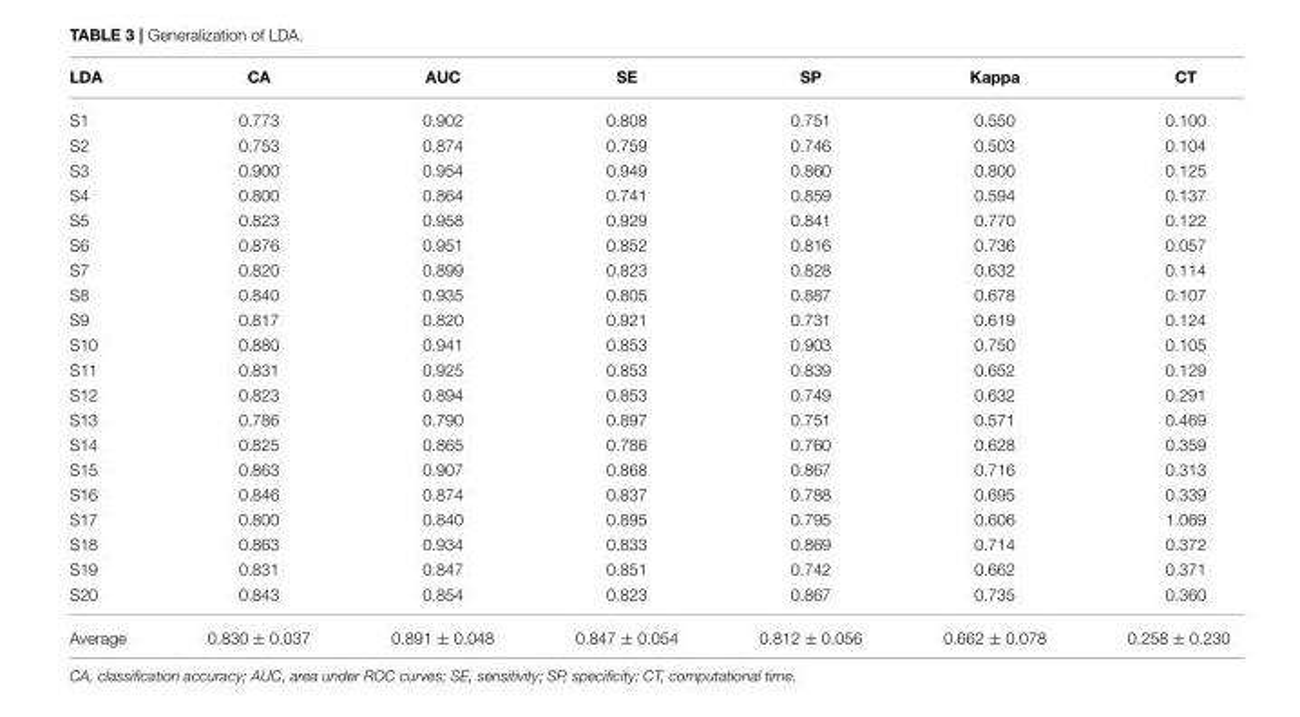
<table><thead><tr><td>LDA</td><td>CA</td><td>AUC</td><td>SE</td><td>SP</td><td>Kappa</td><td>CT</td></tr></thead><tbody><tr><td>S1</td><td>0.773</td><td>0.902</td><td>0.808</td><td>0.751</td><td>0.550</td><td>0.100</td></tr><tr><td>S2</td><td>0.753</td><td>0.874</td><td>0.759</td><td>0.746</td><td>0.503</td><td>0.104</td></tr><tr><td>S3</td><td>0.900</td><td>0.954</td><td>0.949</td><td>0.860</td><td>0.800</td><td>0.125</td></tr><tr><td>S4</td><td>0.800</td><td>0.864</td><td>0.741</td><td>0.859</td><td>0.594</td><td>0.137</td></tr><tr><td>S5</td><td>0.823</td><td>0.958</td><td>0.929</td><td>0.841</td><td>0.770</td><td>0.122</td></tr><tr><td>S6</td><td>0.876</td><td>0.951</td><td>0.852</td><td>0.816</td><td>0.736</td><td>0.057</td></tr><tr><td>S7</td><td>0.820</td><td>0.899</td><td>0.823</td><td>0.828</td><td>0.632</td><td>0.114</td></tr><tr><td>S8</td><td>0.840</td><td>0.935</td><td>0.805</td><td>0.887</td><td>0.678</td><td>0.107</td></tr><tr><td>S9</td><td>0.817</td><td>0.820</td><td>0.921</td><td>0.731</td><td>0.619</td><td>0.124</td></tr><tr><td>S10</td><td>0.880</td><td>0.941</td><td>0.853</td><td>0.903</td><td>0.750</td><td>0.105</td></tr><tr><td>S11</td><td>0.831</td><td>0.925</td><td>0.853</td><td>0.839</td><td>0.652</td><td>0.129</td></tr><tr><td>S12</td><td>0.823</td><td>0.894</td><td>0.853</td><td>0.749</td><td>0.632</td><td>0.291</td></tr><tr><td>S13</td><td>0.786</td><td>0.790</td><td>0.897</td><td>0.751</td><td>0.571</td><td>0.469</td></tr><tr><td>S14</td><td>0.825</td><td>0.865</td><td>0.786</td><td>0.760</td><td>0.628</td><td>0.359</td></tr><tr><td>S15</td><td>0.863</td><td>0.907</td><td>0.868</td><td>0.867</td><td>0.716</td><td>0.313</td></tr><tr><td>S16</td><td>0.846</td><td>0.874</td><td>0.837</td><td>0.788</td><td>0.695</td><td>0.339</td></tr><tr><td>S17</td><td>0.800</td><td>0.840</td><td>0.895</td><td>0.795</td><td>0.606</td><td>1.069</td></tr><tr><td>S18</td><td>0.863</td><td>0.934</td><td>0.833</td><td>0.869</td><td>0.714</td><td>0.372</td></tr><tr><td>S19</td><td>0.831</td><td>0.847</td><td>0.851</td><td>0.742</td><td>0.662</td><td>0.371</td></tr><tr><td>S20</td><td>0.843</td><td>0.854</td><td>0.823</td><td>0.867</td><td>0.735</td><td>0.360</td></tr><tr><td>Average</td><td>0.830 ± 0.037</td><td>0.891 ± 0.048</td><td>0.847 ± 0.054</td><td>0.812 ± 0.056</td><td>0.662 ± 0.078</td><td>0.258 ± 0.230</td></tr></tbody></table>